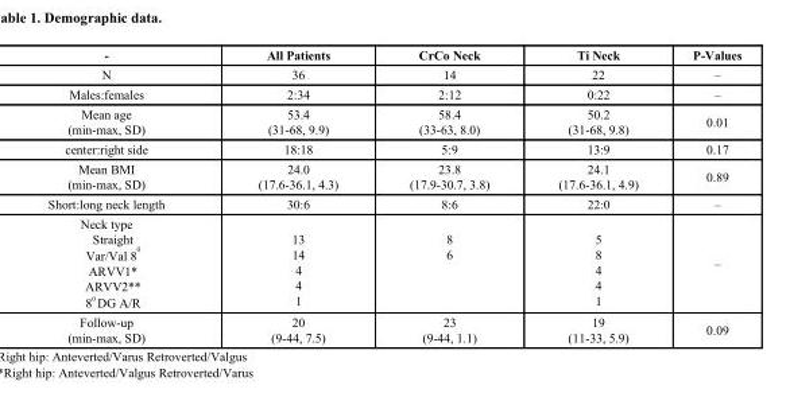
<table><thead><tr><td>-</td><td>All Patients</td><td>CrCo Neck</td><td>Ti Neck</td><td>P-Values</td></tr></thead><tbody><tr><td>N</td><td>36</td><td>14</td><td>22</td><td>–</td></tr><tr><td>Males:females</td><td>2:34</td><td>2:12</td><td>0:22</td><td>–</td></tr><tr><td>Mean age (min-max, SD)</td><td>53.4 (31-68, 9.9)</td><td>58.4 (33-63, 8.0)</td><td>50.2 (31-68, 9.8)</td><td>0.01</td></tr><tr><td>center:right side</td><td>18:18</td><td>5:9</td><td>13:9</td><td>0.17</td></tr><tr><td>Mean BMI (min-max, SD)</td><td>24.0 (17.6-36.1, 4.3)</td><td>23.8 (17.9-30.7, 3.8)</td><td>24.1 (17.6-36.1, 4.9)</td><td>0.89</td></tr><tr><td>Short:long neck length</td><td>30:6</td><td>8:6</td><td>22:0</td><td>–</td></tr><tr><td>Neck type Straight Var/Val 8 <sup>0</sup> ARVV1* ARVV2** 8 <sup>0</sup> DG A/R</td><td>13 14 4 4 1</td><td>8 6</td><td>5 8 4 4 1</td><td>–</td></tr><tr><td>Follow-up (min-max, SD)</td><td>20 (9-44, 7.5)</td><td>23 (9-44, 1.1)</td><td>19 (11-33, 5.9)</td><td>0.09</td></tr></tbody></table>